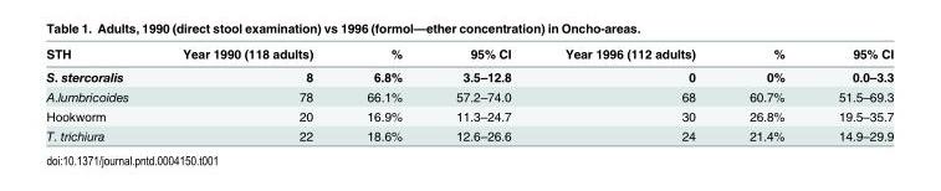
<table><thead><tr><td>STH</td><td>Year 1990 (118 adults)</td><td>%</td><td>95% CI</td><td>Year 1996 (112 adults)</td><td>%</td><td>95% CI</td></tr></thead><tbody><tr><td>S. stercoralis</td><td>8</td><td>6.8%</td><td>3.5–12.8</td><td>0</td><td>0%</td><td>0.0–3.3</td></tr><tr><td>A.lumbricoides</td><td>78</td><td>66.1%</td><td>57.2–74.0</td><td>68</td><td>60.7%</td><td>51.5–69.3</td></tr><tr><td>Hookworm</td><td>20</td><td>16.9%</td><td>11.3–24.7</td><td>30</td><td>26.8%</td><td>19.5–35.7</td></tr><tr><td>T. trichiura</td><td>22</td><td>18.6%</td><td>12.6–26.6</td><td>24</td><td>21.4%</td><td>14.9–29.9</td></tr></tbody></table>